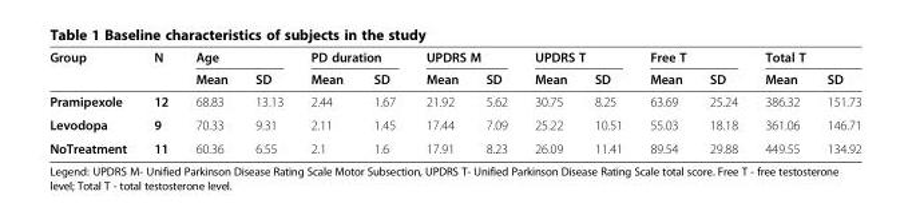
<table><thead><tr><td rowspan="2">Group</td><td rowspan="2">N</td><td colspan="2">Age</td><td colspan="2">PD duration</td><td colspan="2">UPDRS M</td><td colspan="2">UPDRS T</td><td colspan="2">Free T</td><td colspan="2">Total T</td></tr><tr><td>Mean</td><td>SD</td><td>Mean</td><td>SD</td><td>Mean</td><td>SD</td><td>Mean</td><td>SD</td><td>Mean</td><td>SD</td><td>Mean</td><td>SD</td></tr></thead><tbody><tr><td>Pramipexole</td><td>12</td><td>68.83</td><td>13.13</td><td>2.44</td><td>1.67</td><td>21.92</td><td>5.62</td><td>30.75</td><td>8.25</td><td>63.69</td><td>25.24</td><td>386.32</td><td>151.73</td></tr><tr><td>Levodopa</td><td>9</td><td>70.33</td><td>9.31</td><td>2.11</td><td>1.45</td><td>17.44</td><td>7.09</td><td>25.22</td><td>10.51</td><td>55.03</td><td>18.18</td><td>361.06</td><td>146.71</td></tr><tr><td>NoTreatment</td><td>11</td><td>60.36</td><td>6.55</td><td>2.1</td><td>1.6</td><td>17.91</td><td>8.23</td><td>26.09</td><td>11.41</td><td>89.54</td><td>29.88</td><td>449.55</td><td>134.92</td></tr></tbody></table>